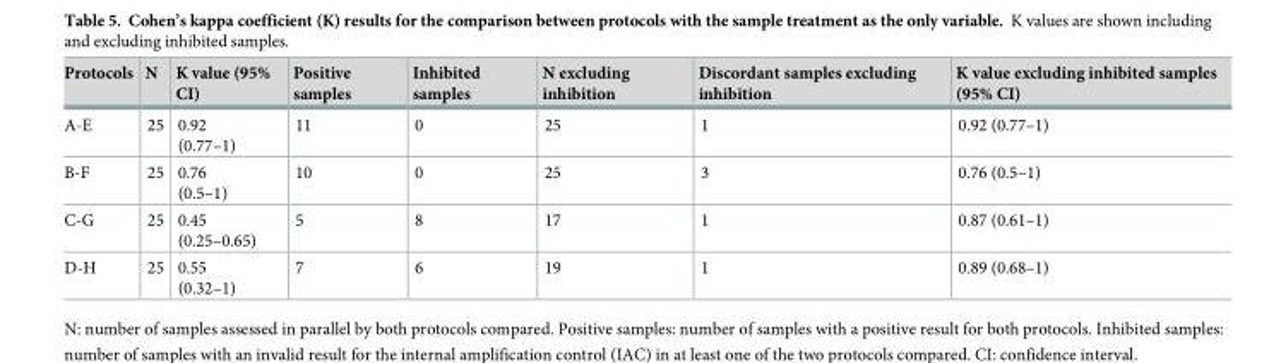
<table><thead><tr><td>Protocols</td><td>N</td><td>K value (95% CI)</td><td>Positive samples</td><td>Inhibited samples</td><td>N excluding inhibition</td><td>Discordant samples excluding inhibition</td><td>K value excluding inhibited samples (95% CI)</td></tr></thead><tbody><tr><td>A-E</td><td>25</td><td>0.92 (0.77–1)</td><td>11</td><td>0</td><td>25</td><td>1</td><td>0.92 (0.77–1)</td></tr><tr><td>B-F</td><td>25</td><td>0.76 (0.5–1)</td><td>10</td><td>0</td><td>25</td><td>3</td><td>0.76 (0.5–1)</td></tr><tr><td>C-G</td><td>25</td><td>0.45 (0.25–0.65)</td><td>5</td><td>8</td><td>17</td><td>1</td><td>0.87 (0.61–1)</td></tr><tr><td>D-H</td><td>25</td><td>0.55 (0.32–1)</td><td>7</td><td>6</td><td>19</td><td>1</td><td>0.89 (0.68–1)</td></tr></tbody></table>